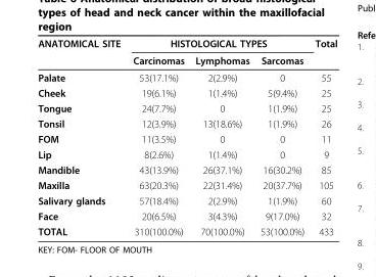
<table><thead><tr><td rowspan="2">ANATOMICAL SITE</td><td colspan="3">HISTOLOGICAL TYPES</td><td rowspan="2">Total</td></tr><tr><td>Carcinomas</td><td>Lymphomas</td><td>Sarcomas</td></tr></thead><tbody><tr><td>Palate</td><td>53(17.1%)</td><td>2(2.9%)</td><td>0</td><td>55</td></tr><tr><td>Cheek</td><td>19(6.1%)</td><td>1(1.4%)</td><td>5(9.4%)</td><td>25</td></tr><tr><td>Tongue</td><td>24(7.7%)</td><td>0</td><td>1(1.9%)</td><td>25</td></tr><tr><td>Tonsil</td><td>12(3.9%)</td><td>13(18.6%)</td><td>1(1.9%)</td><td>26</td></tr><tr><td>FOM</td><td>11(3.5%)</td><td>0</td><td>0</td><td>11</td></tr><tr><td>Lip</td><td>8(2.6%)</td><td>1(1.4%)</td><td>0</td><td>9</td></tr><tr><td>Mandible</td><td>43(13.9%)</td><td>26(37.1%)</td><td>16(30.2%)</td><td>85</td></tr><tr><td>Maxilla</td><td>63(20.3%)</td><td>22(31.4%)</td><td>20(37.7%)</td><td>105</td></tr><tr><td>Salivary glands</td><td>57(18.4%)</td><td>2(2.9%)</td><td>1(1.9%)</td><td>60</td></tr><tr><td>Face</td><td>20(6.5%)</td><td>3(4.3%)</td><td>9(17.0%)</td><td>32</td></tr><tr><td>TOTAL</td><td>310(100.0%)</td><td>70(100.0%)</td><td>53(100.0%)</td><td>433</td></tr></tbody></table>